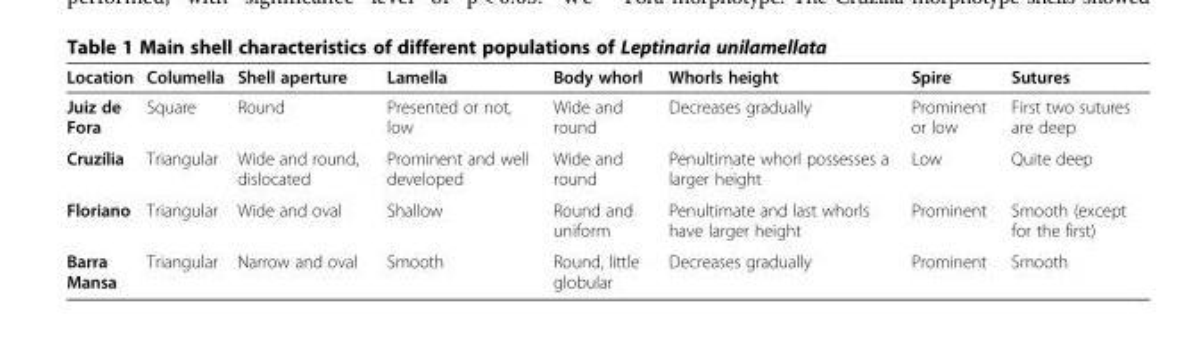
<table><thead><tr><td>Location</td><td>Columella</td><td>Shell aperture</td><td>Lamella</td><td>Body whorl</td><td>Whorls height</td><td>Spire</td><td>Sutures</td></tr></thead><tbody><tr><td>Juiz de Fora</td><td>Square</td><td>Round</td><td>Presented or not, low</td><td>Wide and round</td><td>Decreases gradually</td><td>Prominent or low</td><td>First two sutures are deep</td></tr><tr><td>Cruzília</td><td>Triangular</td><td>Wide and round, dislocated</td><td>Prominent and well developed</td><td>Wide and round</td><td>Penultimate whorl possesses a larger height</td><td>Low</td><td>Quite deep</td></tr><tr><td>Floriano</td><td>Triangular</td><td>Wide and oval</td><td>Shallow</td><td>Round and uniform</td><td>Penultimate and last whorls have larger height</td><td>Prominent</td><td>Smooth (except for the first)</td></tr><tr><td>Barra Mansa</td><td>Triangular</td><td>Narrow and oval</td><td>Smooth</td><td>Round, little globular</td><td>Decreases gradually</td><td>Prominent</td><td>Smooth</td></tr></tbody></table>